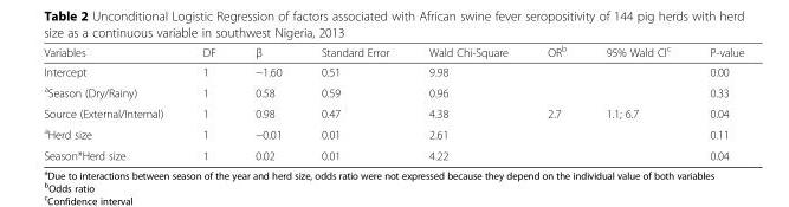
<table><thead><tr><td>Variables</td><td>DF</td><td>β</td><td>Standard Error</td><td>Wald Chi-Square</td><td>OR<sup>b</sup></td><td>95% Wald CI<sup>c</sup></td><td>P-value</td></tr></thead><tbody><tr><td>Intercept</td><td>1</td><td>−1.60</td><td>0.51</td><td>9.98</td><td></td><td></td><td>0.00</td></tr><tr><td><sup>a</sup>Season (Dry/Rainy)</td><td>1</td><td>0.58</td><td>0.59</td><td>0.96</td><td></td><td></td><td>0.33</td></tr><tr><td>Source (External/Internal)</td><td>1</td><td>0.98</td><td>0.47</td><td>4.38</td><td>2.7</td><td>1.1; 6.7</td><td>0.04</td></tr><tr><td><sup>a</sup>Herd size</td><td>1</td><td>−0.01</td><td>0.01</td><td>2.61</td><td></td><td></td><td>0.11</td></tr><tr><td>Season*Herd size</td><td>1</td><td>0.02</td><td>0.01</td><td>4.22</td><td></td><td></td><td>0.04</td></tr></tbody></table>